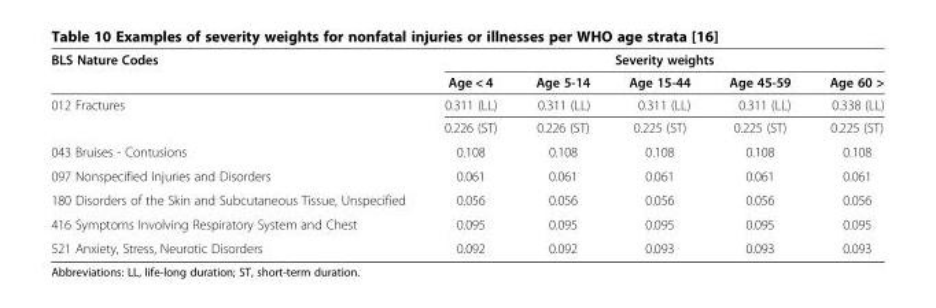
<table><thead><tr><td rowspan="2">BLS Nature Codes</td><td colspan="5">Severity weights</td></tr><tr><td>Age &lt; 4</td><td>Age 5-14</td><td>Age 15-44</td><td>Age 45-59</td><td>Age 60 &gt;</td></tr></thead><tbody><tr><td rowspan="2">012 Fractures</td><td>0.311 (LL)</td><td>0.311 (LL)</td><td>0.311 (LL)</td><td>0.311 (LL)</td><td>0.338 (LL)</td></tr><tr><td>0.226 (ST)</td><td>0.226 (ST)</td><td>0.225 (ST)</td><td>0.225 (ST)</td><td>0.225 (ST)</td></tr><tr><td>043 Bruises - Contusions</td><td>0.108</td><td>0.108</td><td>0.108</td><td>0.108</td><td>0.108</td></tr><tr><td>097 Nonspecified Injuries and Disorders</td><td>0.061</td><td>0.061</td><td>0.061</td><td>0.061</td><td>0.061</td></tr><tr><td>180 Disorders of the Skin and Subcutaneous Tissue, Unspecified</td><td>0.056</td><td>0.056</td><td>0.056</td><td>0.056</td><td>0.056</td></tr><tr><td>416 Symptoms Involving Respiratory System and Chest</td><td>0.095</td><td>0.095</td><td>0.095</td><td>0.095</td><td>0.095</td></tr><tr><td>521 Anxiety, Stress, Neurotic Disorders</td><td>0.092</td><td>0.092</td><td>0.093</td><td>0.093</td><td>0.093</td></tr></tbody></table>